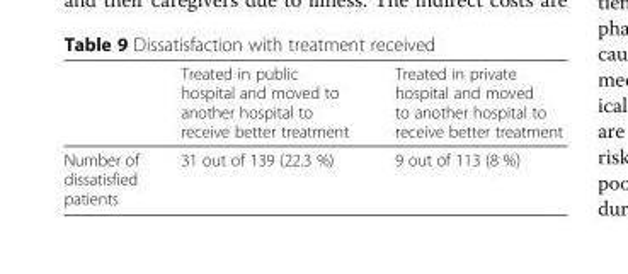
<table><thead><tr><td></td><td>Treated in public hospital and moved to another hospital to receive better treatment</td><td>Treated in private hospital and moved to another hospital to receive better treatment</td></tr></thead><tbody><tr><td>Number of dissatisfied patients</td><td>31 out of 139 (22.3 %)</td><td>9 out of 113 (8 %)</td></tr></tbody></table>